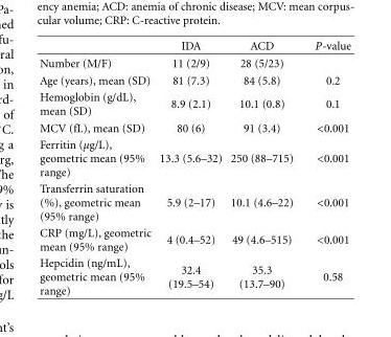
<table><thead><tr><td></td><td>IDA</td><td>ACD</td><td>P-value</td></tr></thead><tbody><tr><td>Number (M/F)</td><td>11 (2/9)</td><td>28 (5/23)</td><td></td></tr><tr><td>Age (years), mean (SD)</td><td>81 (7.3)</td><td>84 (5.8)</td><td>0.2</td></tr><tr><td>Hemoglobin (g/dL), mean (SD)</td><td>8.9 (2.1)</td><td>10.1 (0.8)</td><td>0.1</td></tr><tr><td>MCV (fL), mean (SD)</td><td>80 (6)</td><td>91 (3.4)</td><td>&lt;0.001</td></tr><tr><td>Ferritin (µg/L), geometric mean (95% range)</td><td>13.3 (5.6–32)</td><td>250 (88–715)</td><td>&lt;0.001</td></tr><tr><td>Transferrin saturation (%), geometric mean (95% range)</td><td>5.9 (2–17)</td><td>10.1 (4.6–22)</td><td>&lt;0.001</td></tr><tr><td>CRP (mg/L), geometric mean (95% range)</td><td>4 (0.4–52)</td><td>49 (4.6–515)</td><td>&lt;0.001</td></tr><tr><td>Hepcidin (ng/mL), geometric mean (95% range)</td><td>32.4 (19.5–54)</td><td>35.3 (13.7–90)</td><td>0.58</td></tr></tbody></table>